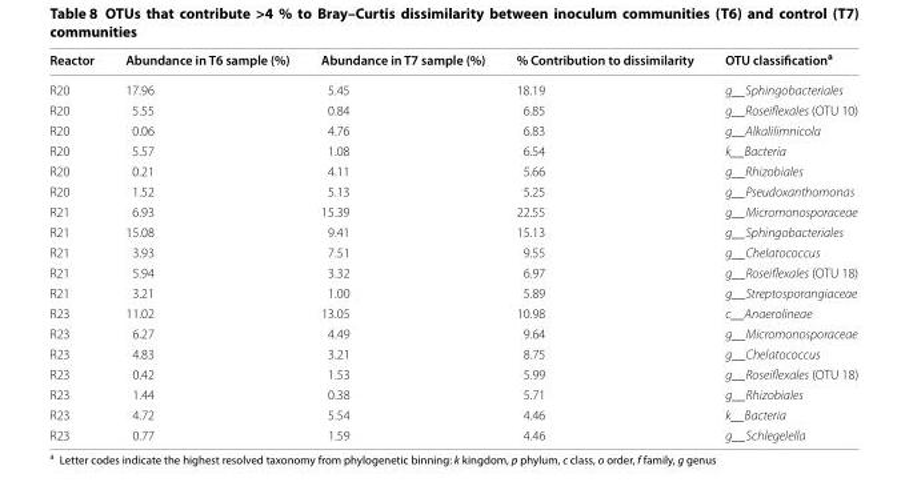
<table><thead><tr><td>Reactor</td><td>Abundance in T6 sample (%)</td><td>Abundance in T7 sample (%)</td><td>% Contribution to dissimilarity</td><td>OTU classification<sup>a</sup></td></tr></thead><tbody><tr><td>R20</td><td>17.96</td><td>5.45</td><td>18.19</td><td>g__Sphingobacteriales</td></tr><tr><td>R20</td><td>5.55</td><td>0.84</td><td>6.85</td><td>g__Roseiflexales (OTU 10)</td></tr><tr><td>R20</td><td>0.06</td><td>4.76</td><td>6.83</td><td>g__Alkalilimnicola</td></tr><tr><td>R20</td><td>5.57</td><td>1.08</td><td>6.54</td><td>k__Bacteria</td></tr><tr><td>R20</td><td>0.21</td><td>4.11</td><td>5.66</td><td>g__Rhizobiales</td></tr><tr><td>R20</td><td>1.52</td><td>5.13</td><td>5.25</td><td>g__Pseudoxanthomonas</td></tr><tr><td>R21</td><td>6.93</td><td>15.39</td><td>22.55</td><td>g__Micromonosporaceae</td></tr><tr><td>R21</td><td>15.08</td><td>9.41</td><td>15.13</td><td>g__Sphingobacteriales</td></tr><tr><td>R21</td><td>3.93</td><td>7.51</td><td>9.55</td><td>g__Chelatococcus</td></tr><tr><td>R21</td><td>5.94</td><td>3.32</td><td>6.97</td><td>g__Roseiflexales (OTU 18)</td></tr><tr><td>R21</td><td>3.21</td><td>1.00</td><td>5.89</td><td>g__Streptosporangiaceae</td></tr><tr><td>R23</td><td>11.02</td><td>13.05</td><td>10.98</td><td>c__Anaerolineae</td></tr><tr><td>R23</td><td>6.27</td><td>4.49</td><td>9.64</td><td>g__Micromonosporaceae</td></tr><tr><td>R23</td><td>4.83</td><td>3.21</td><td>8.75</td><td>g__Chelatococcus</td></tr><tr><td>R23</td><td>0.42</td><td>1.53</td><td>5.99</td><td>g__Roseiflexales (OTU 18)</td></tr><tr><td>R23</td><td>1.44</td><td>0.38</td><td>5.71</td><td>g__Rhizobiales</td></tr><tr><td>R23</td><td>4.72</td><td>5.54</td><td>4.46</td><td>k__Bacteria</td></tr><tr><td>R23</td><td>0.77</td><td>1.59</td><td>4.46</td><td>g__Schlegelella</td></tr></tbody></table>